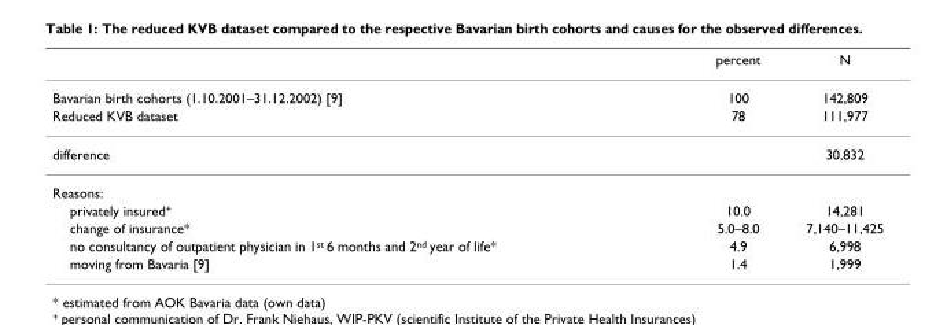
<table><thead><tr><td></td><td>percent</td><td>N</td></tr></thead><tbody><tr><td>Bavarian birth cohorts (1.10.2001–31.12.2002) [9]</td><td>100</td><td>142,809</td></tr><tr><td>Reduced KVB dataset</td><td>78</td><td>111,977</td></tr><tr><td>difference</td><td></td><td>30,832</td></tr><tr><td colspan="3">Reasons:</td></tr><tr><td>privately insured<sup>+</sup></td><td>10.0</td><td>14,281</td></tr><tr><td>change of insurance*</td><td>5.0–8.0</td><td>7,140–11,425</td></tr><tr><td>no consultancy of outpatient physician in 1<sup>st</sup> 6 months and 2<sup>nd</sup> year of life*</td><td>4.9</td><td>6,998</td></tr><tr><td>moving from Bavaria [9]</td><td>1.4</td><td>1,999</td></tr></tbody></table>